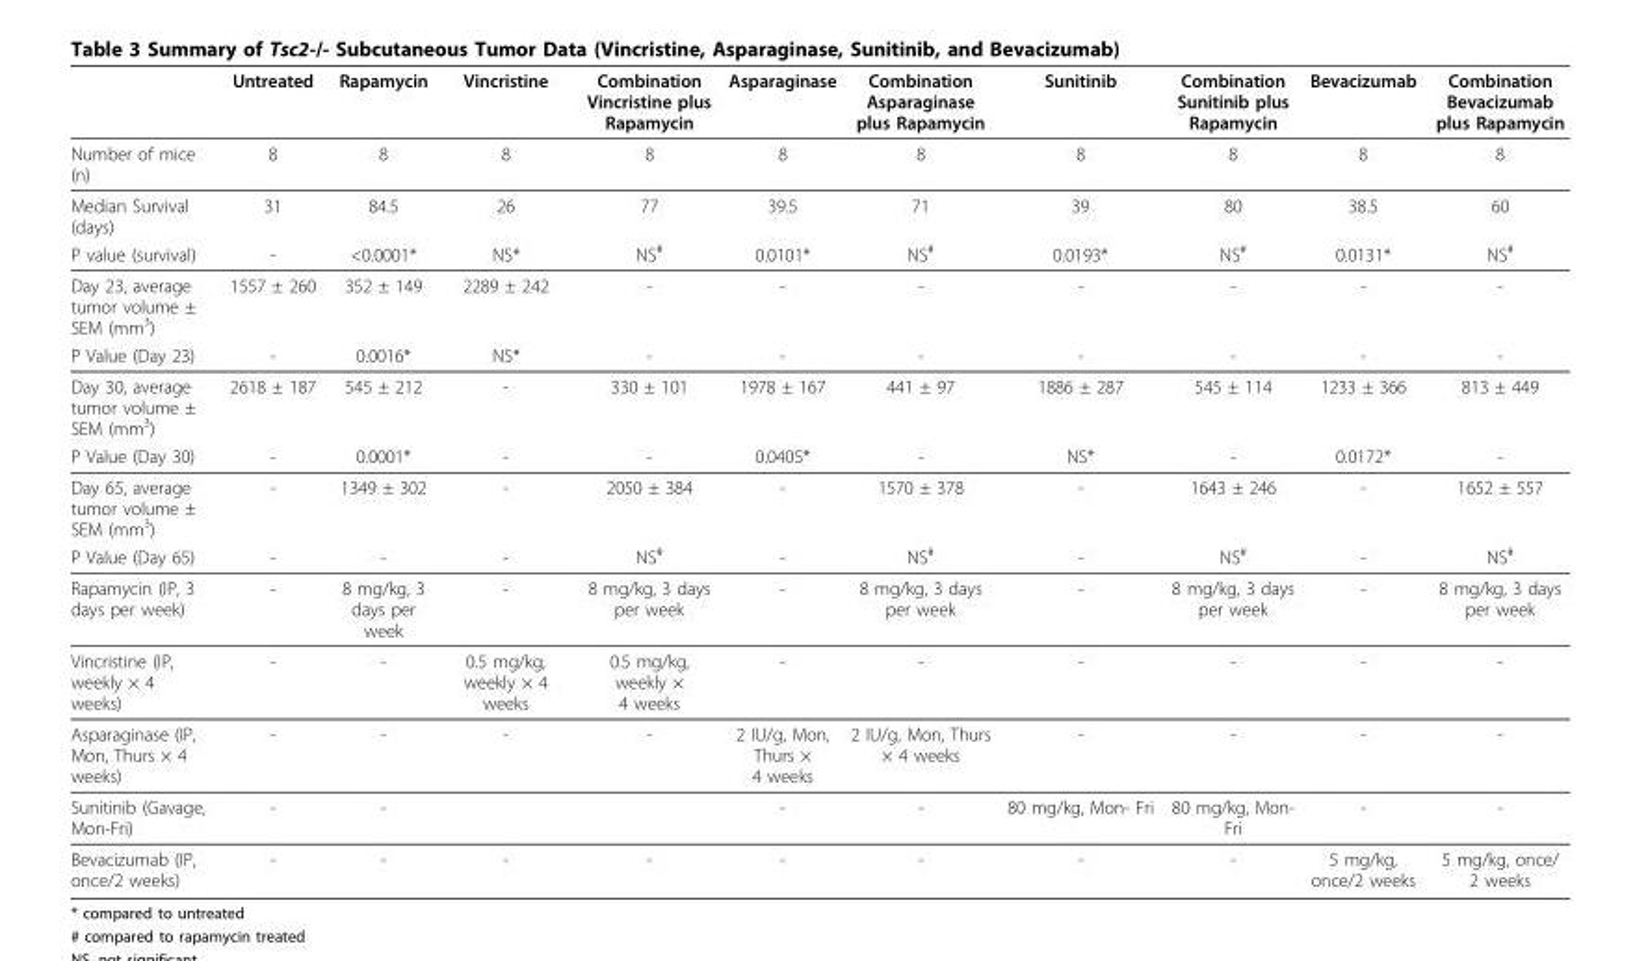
<table><thead><tr><td></td><td>Untreated</td><td>Rapamycin</td><td>Vincristine</td><td>Combination Vincristine plus Rapamycin</td><td>Asparaginase</td><td>Combination Asparaginase plus Rapamycin</td><td>Sunitinib</td><td>Combination Sunitinib plus Rapamycin</td><td>Bevacizumab</td><td>Combination Bevacizumab plus Rapamycin</td></tr></thead><tbody><tr><td>Number of mice (n)</td><td>8</td><td>8</td><td>8</td><td>8</td><td>8</td><td>8</td><td>8</td><td>8</td><td>8</td><td>8</td></tr><tr><td>Median Survival (days)</td><td>31</td><td>84.5</td><td>26</td><td>77</td><td>39.5</td><td>71</td><td>39</td><td>80</td><td>38.5</td><td>60</td></tr><tr><td>P value (survival)</td><td>-</td><td>&lt;0.0001*</td><td>NS*</td><td>NS<sup>#</sup></td><td>0.0101*</td><td>NS<sup>#</sup></td><td>0.0193*</td><td>NS<sup>#</sup></td><td>0.0131*</td><td>NS<sup>#</sup></td></tr><tr><td>Day 23, average tumor volume ± SEM (mm<sup>3</sup>)</td><td>1557 ± 260</td><td>352 ± 149</td><td>2289 ± 242</td><td>-</td><td>-</td><td>-</td><td>-</td><td>-</td><td>-</td><td>-</td></tr><tr><td>P Value (Day 23)</td><td>-</td><td>0.0016*</td><td>NS*</td><td>-</td><td>-</td><td>-</td><td>-</td><td>-</td><td>-</td><td>-</td></tr><tr><td>Day 30, average tumor volume ± SEM (mm<sup>3</sup>)</td><td>2618 ± 187</td><td>545 ± 212</td><td>-</td><td>330 ± 101</td><td>1978 ± 167</td><td>441 ± 97</td><td>1886 ± 287</td><td>545 ± 114</td><td>1233 ± 366</td><td>813 ± 449</td></tr><tr><td>P Value (Day 30)</td><td>-</td><td>0.0001*</td><td>-</td><td>-</td><td>0.0405*</td><td>-</td><td>NS*</td><td>-</td><td>0.0172*</td><td>-</td></tr><tr><td>Day 65, average tumor volume ± SEM (mm<sup>3</sup>)</td><td>-</td><td>1349 ± 302</td><td>-</td><td>2050 ± 384</td><td>-</td><td>1570 ± 378</td><td>-</td><td>1643 ± 246</td><td>-</td><td>1652 ± 557</td></tr><tr><td>P Value (Day 65)</td><td>-</td><td>-</td><td>-</td><td>NS<sup>#</sup></td><td>-</td><td>NS<sup>#</sup></td><td>-</td><td>NS<sup>#</sup></td><td>-</td><td>NS<sup>#</sup></td></tr><tr><td>Rapamycin (IP, 3 days per week)</td><td>-</td><td>8 mg/kg, 3 days per week</td><td>-</td><td>8 mg/kg, 3 days per week</td><td>-</td><td>8 mg/kg, 3 days per week</td><td>-</td><td>8 mg/kg, 3 days per week</td><td>-</td><td>8 mg/kg, 3 days per week</td></tr><tr><td>Vincristine (IP, weekly × 4 weeks)</td><td>-</td><td>-</td><td>0.5 mg/kg, weekly × 4 weeks</td><td>0.5 mg/kg, weekly × 4 weeks</td><td>-</td><td>-</td><td>-</td><td>-</td><td>-</td><td>-</td></tr><tr><td>Asparaginase (IP, Mon, Thurs × 4 weeks)</td><td>-</td><td>-</td><td>-</td><td>-</td><td>2 IU/g, Mon, Thurs × 4 weeks</td><td>2 IU/g, Mon, Thurs × 4 weeks</td><td>-</td><td>-</td><td>-</td><td>-</td></tr><tr><td>Sunitinib (Gavage, Mon-Fri)</td><td>-</td><td>-</td><td></td><td></td><td>-</td><td>-</td><td>80 mg/kg, Mon- Fri</td><td>80 mg/kg, Mon- Fri</td><td>-</td><td>-</td></tr><tr><td>Bevacizumab (IP, once/2 weeks)</td><td>-</td><td>-</td><td>-</td><td>-</td><td>-</td><td>-</td><td>-</td><td>-</td><td>5 mg/kg, once/2 weeks</td><td>5 mg/kg, once/ 2 weeks</td></tr></tbody></table>